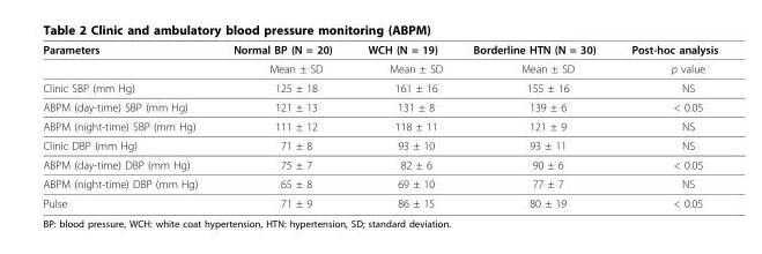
<table><thead><tr><td>Parameters</td><td>Normal BP (N = 20)</td><td>WCH (N = 19)</td><td>Borderline HTN (N = 30)</td><td>Post-hoc analysis</td></tr></thead><tbody><tr><td></td><td>Mean ± SD</td><td>Mean ± SD</td><td>Mean ± SD</td><td>p value</td></tr><tr><td>Clinic SBP (mm Hg)</td><td>125 ± 18</td><td>161 ± 16</td><td>155 ± 16</td><td>NS</td></tr><tr><td>ABPM (day-time) SBP (mm Hg)</td><td>121 ± 13</td><td>131 ± 8</td><td>139 ± 6</td><td>&lt; 0.05</td></tr><tr><td>ABPM (night-time) SBP (mm Hg)</td><td>111 ± 12</td><td>118 ± 11</td><td>121 ± 9</td><td>NS</td></tr><tr><td>Clinic DBP (mm Hg)</td><td>71 ± 8</td><td>93 ± 10</td><td>93 ± 11</td><td>NS</td></tr><tr><td>ABPM (day-time) DBP (mm Hg)</td><td>75 ± 7</td><td>82 ± 6</td><td>90 ± 6</td><td>&lt; 0.05</td></tr><tr><td>ABPM (night-time) DBP (mm Hg)</td><td>65 ± 8</td><td>69 ± 10</td><td>77 ± 7</td><td>NS</td></tr><tr><td>Pulse</td><td>71 ± 9</td><td>86 ± 15</td><td>80 ± 19</td><td>&lt; 0.05</td></tr></tbody></table>